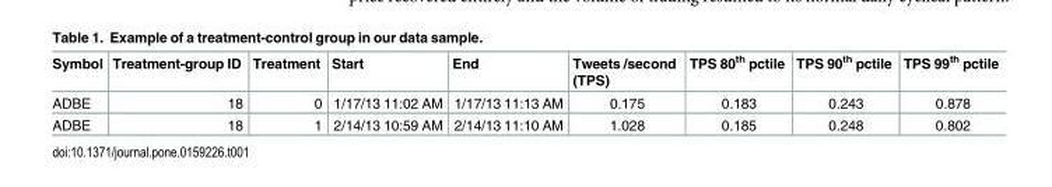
<table><thead><tr><td>Symbol</td><td>Treatment-group ID</td><td>Treatment</td><td>Start</td><td>End</td><td>Tweets /second (TPS)</td><td>TPS 80<sup>th</sup> pctile</td><td>TPS 90<sup>th</sup> pctile</td><td>TPS 99<sup>th</sup> pctile</td></tr></thead><tbody><tr><td>ADBE</td><td>18</td><td>0</td><td>1/17/13 11:02 AM</td><td>1/17/13 11:13 AM</td><td>0.175</td><td>0.183</td><td>0.243</td><td>0.878</td></tr><tr><td>ADBE</td><td>18</td><td>1</td><td>2/14/13 10:59 AM</td><td>2/14/13 11:10 AM</td><td>1.028</td><td>0.185</td><td>0.248</td><td>0.802</td></tr></tbody></table>